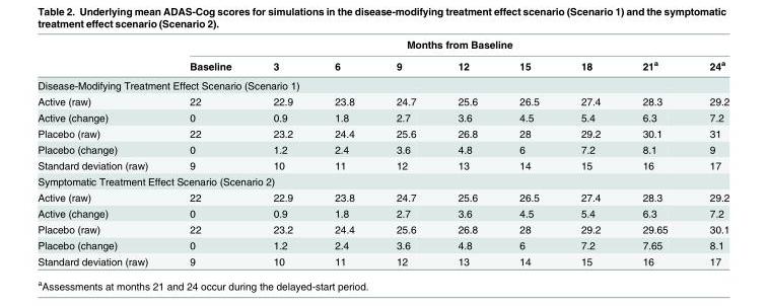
<table><thead><tr><td rowspan="2"></td><td colspan="9">Months from Baseline</td></tr><tr><td>Baseline</td><td>3</td><td>6</td><td>9</td><td>12</td><td>15</td><td>18</td><td>21<sup>a</sup></td><td>24<sup>a</sup></td></tr></thead><tbody><tr><td colspan="10">Disease-Modifying Treatment Effect Scenario (Scenario 1)</td></tr><tr><td>Active (raw)</td><td>22</td><td>22.9</td><td>23.8</td><td>24.7</td><td>25.6</td><td>26.5</td><td>27.4</td><td>28.3</td><td>29.2</td></tr><tr><td>Active (change)</td><td>0</td><td>0.9</td><td>1.8</td><td>2.7</td><td>3.6</td><td>4.5</td><td>5.4</td><td>6.3</td><td>7.2</td></tr><tr><td>Placebo (raw)</td><td>22</td><td>23.2</td><td>24.4</td><td>25.6</td><td>26.8</td><td>28</td><td>29.2</td><td>30.1</td><td>31</td></tr><tr><td>Placebo (change)</td><td>0</td><td>1.2</td><td>2.4</td><td>3.6</td><td>4.8</td><td>6</td><td>7.2</td><td>8.1</td><td>9</td></tr><tr><td>Standard deviation (raw)</td><td>9</td><td>10</td><td>11</td><td>12</td><td>13</td><td>14</td><td>15</td><td>16</td><td>17</td></tr><tr><td colspan="10">Symptomatic Treatment Effect Scenario (Scenario 2)</td></tr><tr><td>Active (raw)</td><td>22</td><td>22.9</td><td>23.8</td><td>24.7</td><td>25.6</td><td>26.5</td><td>27.4</td><td>28.3</td><td>29.2</td></tr><tr><td>Active (change)</td><td>0</td><td>0.9</td><td>1.8</td><td>2.7</td><td>3.6</td><td>4.5</td><td>5.4</td><td>6.3</td><td>7.2</td></tr><tr><td>Placebo (raw)</td><td>22</td><td>23.2</td><td>24.4</td><td>25.6</td><td>26.8</td><td>28</td><td>29.2</td><td>29.65</td><td>30.1</td></tr><tr><td>Placebo (change)</td><td>0</td><td>1.2</td><td>2.4</td><td>3.6</td><td>4.8</td><td>6</td><td>7.2</td><td>7.65</td><td>8.1</td></tr><tr><td>Standard deviation (raw)</td><td>9</td><td>10</td><td>11</td><td>12</td><td>13</td><td>14</td><td>15</td><td>16</td><td>17</td></tr></tbody></table>